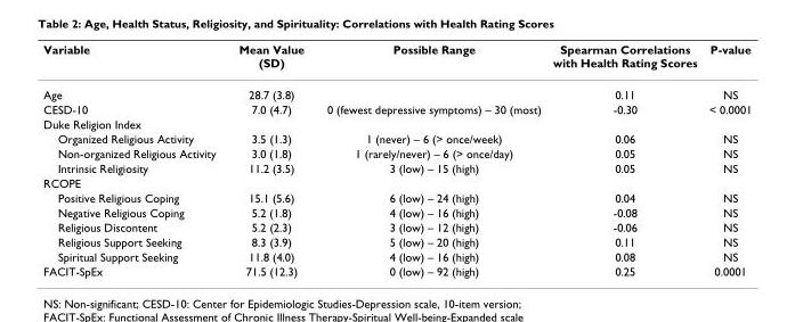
<table><thead><tr><td>Variable</td><td>Mean Value (SD)</td><td>Possible Range</td><td>Spearman Correlations with Health Rating Scores</td><td>P-value</td></tr></thead><tbody><tr><td>Age</td><td>28.7 (3.8)</td><td></td><td>0.11</td><td>NS</td></tr><tr><td>CESD-10</td><td>7.0 (4.7)</td><td>0 (fewest depressive symptoms) – 30 (most)</td><td>-0.30</td><td>&lt; 0.0001</td></tr><tr><td colspan="5">Duke Religion Index</td></tr><tr><td>Organized Religious Activity</td><td>3.5 (1.3)</td><td>1 (never) – 6 (&gt; once/week)</td><td>0.06</td><td>NS</td></tr><tr><td>Non-organized Religious Activity</td><td>3.0 (1.8)</td><td>1 (rarely/never) – 6 (&gt; once/day)</td><td>0.05</td><td>NS</td></tr><tr><td>Intrinsic Religiosity</td><td>11.2 (3.5)</td><td>3 (low) – 15 (high)</td><td>0.05</td><td>NS</td></tr><tr><td colspan="5">RCOPE</td></tr><tr><td>Positive Religious Coping</td><td>15.1 (5.6)</td><td>6 (low) – 24 (high)</td><td>0.04</td><td>NS</td></tr><tr><td>Negative Religious Coping</td><td>5.2 (1.8)</td><td>4 (low) – 16 (high)</td><td>-0.08</td><td>NS</td></tr><tr><td>Religious Discontent</td><td>5.2 (2.3)</td><td>3 (low) – 12 (high)</td><td>-0.06</td><td>NS</td></tr><tr><td>Religious Support Seeking</td><td>8.3 (3.9)</td><td>5 (low) – 20 (high)</td><td>0.11</td><td>NS</td></tr><tr><td>Spiritual Support Seeking</td><td>11.8 (4.0)</td><td>4 (low) – 16 (high)</td><td>0.08</td><td>NS</td></tr><tr><td>FACIT-SpEx</td><td>71.5 (12.3)</td><td>0 (low) – 92 (high)</td><td>0.25</td><td>0.0001</td></tr></tbody></table>